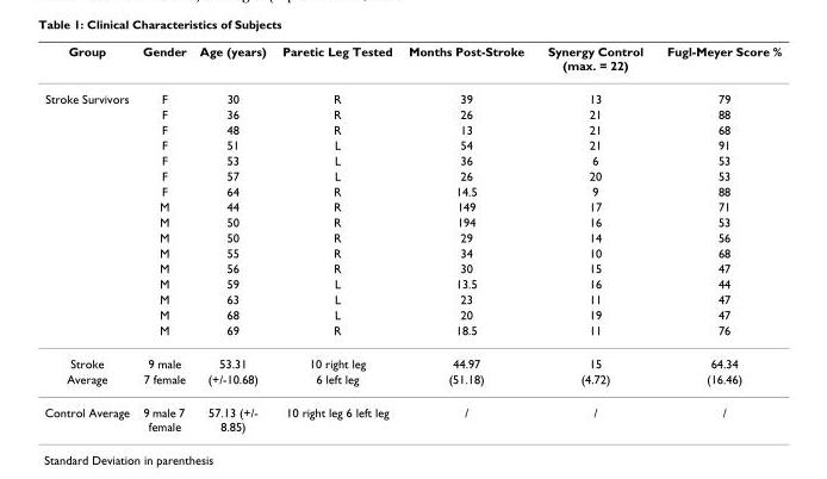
<table><thead><tr><td>Group</td><td>Gender</td><td>Age (years)</td><td>Paretic Leg Tested</td><td>Months Post-Stroke</td><td>Synergy Control (max. = 22)</td><td>Fugl-Meyer Score %</td></tr></thead><tbody><tr><td rowspan="16">Stroke Survivors</td><td>F</td><td>30</td><td>R</td><td>39</td><td>13</td><td>79</td></tr><tr><td>F</td><td>36</td><td>R</td><td>26</td><td>21</td><td>88</td></tr><tr><td>F</td><td>48</td><td>R</td><td>13</td><td>21</td><td>68</td></tr><tr><td>F</td><td>51</td><td>L</td><td>54</td><td>21</td><td>91</td></tr><tr><td>F</td><td>53</td><td>L</td><td>36</td><td>6</td><td>53</td></tr><tr><td>F</td><td>57</td><td>L</td><td>26</td><td>20</td><td>53</td></tr><tr><td>F</td><td>64</td><td>R</td><td>14.5</td><td>9</td><td>88</td></tr><tr><td>M</td><td>44</td><td>R</td><td>149</td><td>17</td><td>71</td></tr><tr><td>M</td><td>50</td><td>R</td><td>194</td><td>16</td><td>53</td></tr><tr><td>M</td><td>50</td><td>R</td><td>29</td><td>14</td><td>56</td></tr><tr><td>M</td><td>55</td><td>R</td><td>34</td><td>10</td><td>68</td></tr><tr><td>M</td><td>56</td><td>R</td><td>30</td><td>15</td><td>47</td></tr><tr><td>M</td><td>59</td><td>L</td><td>13.5</td><td>16</td><td>44</td></tr><tr><td>M</td><td>63</td><td>L</td><td>23</td><td>11</td><td>47</td></tr><tr><td>M</td><td>68</td><td>L</td><td>20</td><td>19</td><td>47</td></tr><tr><td>M</td><td>69</td><td>R</td><td>18.5</td><td>11</td><td>76</td></tr><tr><td>Stroke</td><td>9 male</td><td>53.31</td><td>10 right leg</td><td>44.97</td><td>15</td><td>64.34</td></tr><tr><td>Average</td><td>7 female</td><td>(+/-10.68)</td><td>6 left leg</td><td>(51.18)</td><td>(4.72)</td><td>(16.46)</td></tr><tr><td>Control Average</td><td>9 male 7 female</td><td>57.13 (+/- 8.85)</td><td>10 right leg 6 left leg</td><td>/</td><td>/</td><td>/</td></tr></tbody></table>